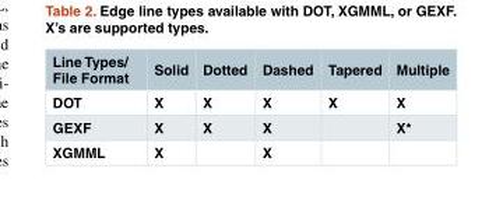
<table><thead><tr><td>Line Types/ File Format</td><td>Solid</td><td>Dotted</td><td>Dashed</td><td>Tapered</td><td>Multiple</td></tr></thead><tbody><tr><td>DOT</td><td>X</td><td>X</td><td>X</td><td>X</td><td>X</td></tr><tr><td>GEXF</td><td>X</td><td>X</td><td>X</td><td></td><td>X*</td></tr><tr><td>XGMML</td><td>X</td><td></td><td>X</td><td></td><td></td></tr></tbody></table>